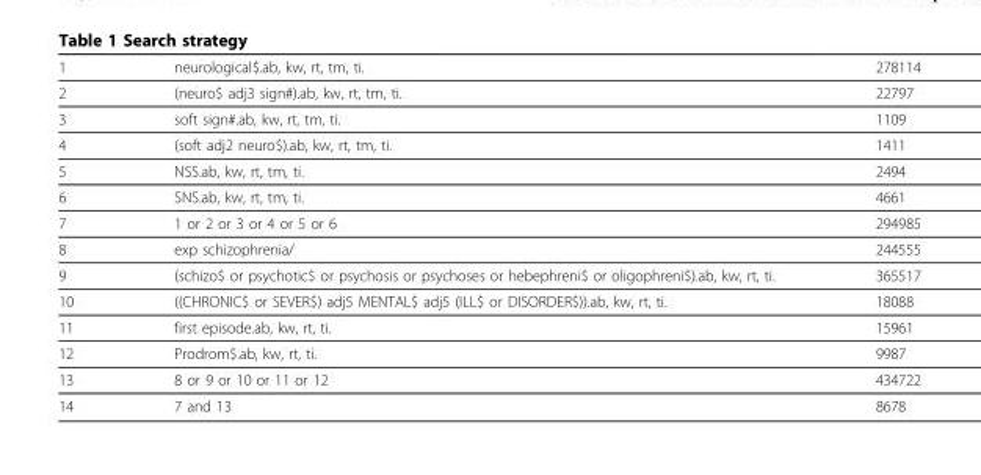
<table><thead><tr><td>1</td><td>neurological$.ab, kw, rt, tm, ti.</td><td>278114</td></tr></thead><tbody><tr><td>2</td><td>(neuro$ adj3 sign#).ab, kw, rt, tm, ti.</td><td>22797</td></tr><tr><td>3</td><td>soft sign#.ab, kw, rt, tm, ti.</td><td>1109</td></tr><tr><td>4</td><td>(soft adj2 neuro$).ab, kw, rt, tm, ti.</td><td>1411</td></tr><tr><td>5</td><td>NSS.ab, kw, rt, tm, ti.</td><td>2494</td></tr><tr><td>6</td><td>SNS.ab, kw, rt, tm, ti.</td><td>4661</td></tr><tr><td>7</td><td>1 or 2 or 3 or 4 or 5 or 6</td><td>294985</td></tr><tr><td>8</td><td>exp schizophrenia/</td><td>244555</td></tr><tr><td>9</td><td>(schizo$ or psychotic$ or psychosis or psychoses or hebephreni$ or oligophreni$).ab, kw, rt, ti.</td><td>365517</td></tr><tr><td>10</td><td>((CHRONIC$ or SEVER$) adj5 MENTAL$ adj5 (ILL$ or DISORDER$)).ab, kw, rt, ti.</td><td>18088</td></tr><tr><td>11</td><td>first episode.ab, kw, rt, ti.</td><td>15961</td></tr><tr><td>12</td><td>Prodrom$.ab, kw, rt, ti.</td><td>9987</td></tr><tr><td>13</td><td>8 or 9 or 10 or 11 or 12</td><td>434722</td></tr><tr><td>14</td><td>7 and 13</td><td>8678</td></tr></tbody></table>